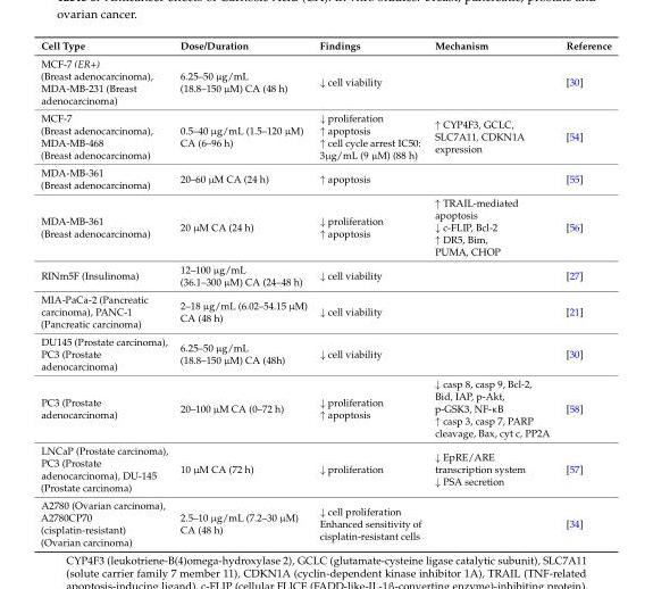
<table><thead><tr><td>Cell Type</td><td>Dose/Duration</td><td>Findings</td><td>Mechanism</td><td>Reference</td></tr></thead><tbody><tr><td>MCF-7 (ER+) (Breast adenocarcinoma), MDA-MB-231 (Breast adenocarcinoma)</td><td>6.25–50 µg/mL (18.8–150 µM) CA (48 h)</td><td>↓ cell viability</td><td></td><td>[30]</td></tr><tr><td>MCF-7 (Breast adenocarcinoma), MDA-MB-468 (Breast adenocarcinoma)</td><td>0.5–40 µg/mL (1.5–120 µM) CA (6–96 h)</td><td>↓ proliferation ↑ apoptosis ↑ cell cycle arrest IC50: 3µg/mL (9 µM) (88 h)</td><td>↑ CYP4F3, GCLC, SLC7A11, CDKN1A expression</td><td>[54]</td></tr><tr><td>MDA-MB-361 (Breast adenocarcinoma)</td><td>20–60 µM CA (24 h)</td><td>↑ apoptosis</td><td></td><td>[55]</td></tr><tr><td>MDA-MB-361 (Breast adenocarcinoma)</td><td>20 µM CA (24 h)</td><td>↓ proliferation ↑ apoptosis</td><td>↑ TRAIL-mediated apoptosis ↓ c-FLIP, Bcl-2 ↑ DR5, Bim, PUMA, CHOP</td><td>[56]</td></tr><tr><td>RINm5F (Insulinoma)</td><td>12–100 µg/mL (36.1–300 µM) CA (24–48 h)</td><td>↓ cell viability</td><td></td><td>[27]</td></tr><tr><td>MIA-PaCa-2 (Pancreatic carcinoma), PANC-1 (Pancreatic carcinoma)</td><td>2–18 µg/mL (6.02–54.15 µM) CA (48 h)</td><td>↓ cell viability</td><td></td><td>[21]</td></tr><tr><td>DU145 (Prostate carcinoma), PC3 (Prostate adenocarcinoma)</td><td>6.25–50 µg/mL (18.8–150 µM) CA (48h)</td><td>↓ cell viability</td><td></td><td>[30]</td></tr><tr><td>PC3 (Prostate adenocarcinoma)</td><td>20–100 µM CA (0–72 h)</td><td>↓ proliferation ↑ apoptosis</td><td>↓ casp 8, casp 9, Bcl-2, Bid, IAP, p-Akt, p-GSK3, NF-κB ↑ casp 3, casp 7, PARP cleavage, Bax, cyt c, PP2A</td><td>[58]</td></tr><tr><td>LNCaP (Prostate carcinoma), PC3 (Prostate adenocarcinoma), DU-145 (Prostate carcinoma)</td><td>10 µM CA (72 h)</td><td>↓ proliferation</td><td>↓ EpRE/ARE transcription system ↓ PSA secretion</td><td>[57]</td></tr><tr><td>A2780 (Ovarian carcinoma), A2780CP70 (cisplatin-resistant) (Ovarian carcinoma)</td><td>2.5–10 µg/mL (7.2–30 µM) CA (48 h)</td><td>↓ cell proliferation Enhanced sensitivity of cisplatin-resistant cells</td><td></td><td>[34]</td></tr></tbody></table>